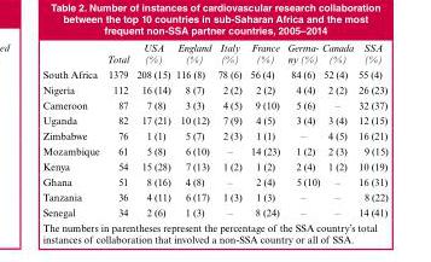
<table><thead><tr><td></td><td>Total</td><td>USA (%)</td><td>England (%)</td><td>Italy (%)</td><td>France (%)</td><td>Germa- ny (%)</td><td>Canada (%)</td><td>SSA (%)</td></tr></thead><tbody><tr><td>South Africa</td><td>1379</td><td>208 (15)</td><td>116 (8)</td><td>78 (6)</td><td>56 (4)</td><td>84 (6)</td><td>52 (4)</td><td>55 (4)</td></tr><tr><td>Nigeria</td><td>112</td><td>16 (14)</td><td>8 (7)</td><td>2 (2)</td><td>2 (2)</td><td>4 (4)</td><td>2 (2)</td><td>26 (23)</td></tr><tr><td>Cameroon</td><td>87</td><td>7 (8)</td><td>3 (3)</td><td>4 (5)</td><td>9 (10)</td><td>5 (6)</td><td>–</td><td>32 (37)</td></tr><tr><td>Uganda</td><td>82</td><td>17 (21)</td><td>10 (12)</td><td>7 (9)</td><td>4 (5)</td><td>3 (4)</td><td>3 (4)</td><td>12 (15)</td></tr><tr><td>Zimbabwe</td><td>76</td><td>1 (1)</td><td>5 (7)</td><td>2 (3)</td><td>1 (1)</td><td>–</td><td>4 (5)</td><td>16 (21)</td></tr><tr><td>Mozambique</td><td>61</td><td>5 (8)</td><td>6 (10)</td><td>–</td><td>14 (23)</td><td>1 (2)</td><td>2 (3)</td><td>9 (15)</td></tr><tr><td>Kenya</td><td>54</td><td>15 (28)</td><td>7 (13)</td><td>1 (2)</td><td>1 (2)</td><td>2 (4)</td><td>1 (2)</td><td>10 (19)</td></tr><tr><td>Ghana</td><td>51</td><td>8 (16)</td><td>4 (8)</td><td>–</td><td>2 (4)</td><td>5 (10)</td><td>–</td><td>16 (31)</td></tr><tr><td>Tanzania</td><td>36</td><td>4 (11)</td><td>6 (17)</td><td>1 (3)</td><td>1 (3)</td><td>–</td><td>–</td><td>8 (22)</td></tr><tr><td>Senegal</td><td>34</td><td>2 (6)</td><td>1 (3)</td><td>–</td><td>8 (24)</td><td>–</td><td>–</td><td>14 (41)</td></tr></tbody></table>